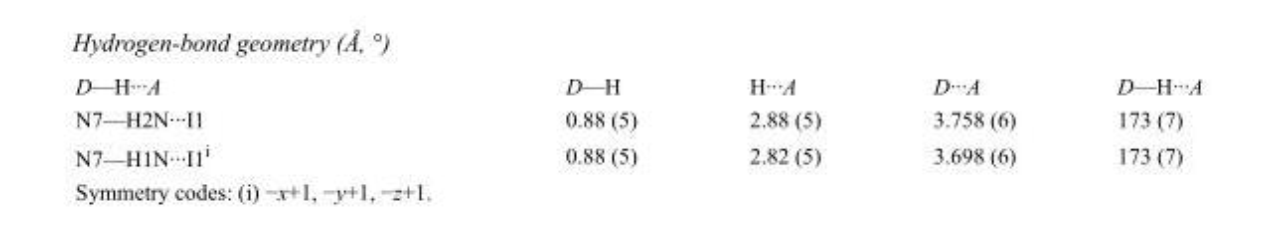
<table><tbody><tr><td>D—H···A</td><td>D—H</td><td>H···A</td><td>D···A</td><td>D—H···A</td></tr><tr><td>N7—H2N···I1</td><td>0.88 (5)</td><td>2.88 (5)</td><td>3.758 (6)</td><td>173 (7)</td></tr><tr><td>N7—H1N···I1<sup>i</sup></td><td>0.88 (5)</td><td>2.82 (5)</td><td>3.698 (6)</td><td>173 (7)</td></tr></tbody></table>